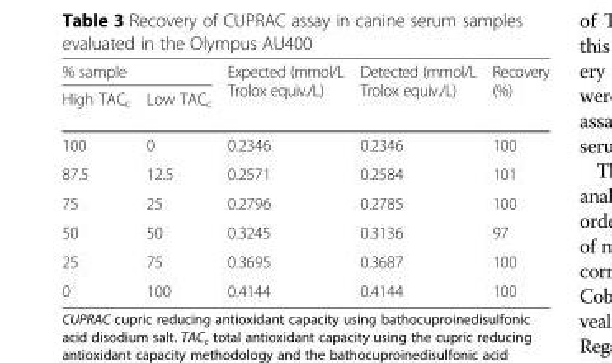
<table><thead><tr><td colspan="2">% sample</td><td rowspan="2">Expected (mmol/L Trolox equiv./L)</td><td rowspan="2">Detected (mmol/L Trolox equiv./L)</td><td rowspan="2">Recovery (%)</td></tr><tr><td>High TAC<sub>c</sub></td><td>Low TAC<sub>c</sub></td></tr></thead><tbody><tr><td>100</td><td>0</td><td>0.2346</td><td>0.2346</td><td>100</td></tr><tr><td>87.5</td><td>12.5</td><td>0.2571</td><td>0.2584</td><td>101</td></tr><tr><td>75</td><td>25</td><td>0.2796</td><td>0.2785</td><td>100</td></tr><tr><td>50</td><td>50</td><td>0.3245</td><td>0.3136</td><td>97</td></tr><tr><td>25</td><td>75</td><td>0.3695</td><td>0.3687</td><td>100</td></tr><tr><td>0</td><td>100</td><td>0.4144</td><td>0.4144</td><td>100</td></tr></tbody></table>